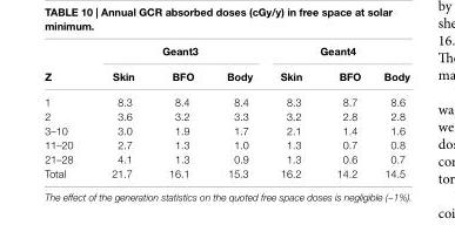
<table><thead><tr><td rowspan="2">Z</td><td colspan="3">geant3</td><td colspan="3">geant4</td></tr><tr><td>skin</td><td>BFO</td><td>Body</td><td>skin</td><td>BFO</td><td>Body</td></tr></thead><tbody><tr><td>1</td><td>8.3</td><td>8.4</td><td>8.4</td><td>8.3</td><td>8.7</td><td>8.6</td></tr><tr><td>2</td><td>3.6</td><td>3.2</td><td>3.3</td><td>3.2</td><td>2.8</td><td>2.8</td></tr><tr><td>3–10</td><td>3.0</td><td>1.9</td><td>1.7</td><td>2.1</td><td>1.4</td><td>1.6</td></tr><tr><td>11–20</td><td>2.7</td><td>1.3</td><td>1.0</td><td>1.3</td><td>0.7</td><td>0.8</td></tr><tr><td>21–28</td><td>4.1</td><td>1.3</td><td>0.9</td><td>1.3</td><td>0.6</td><td>0.7</td></tr><tr><td>Total</td><td>21.7</td><td>16.1</td><td>15.3</td><td>16.2</td><td>14.2</td><td>14.5</td></tr></tbody></table>